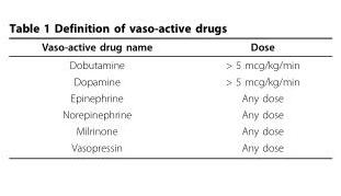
<table><thead><tr><td>Vaso-active drug name</td><td>Dose</td></tr></thead><tbody><tr><td>Dobutamine</td><td>&gt; 5 mcg/kg/min</td></tr><tr><td>Dopamine</td><td>&gt; 5 mcg/kg/min</td></tr><tr><td>Epinephrine</td><td>Any dose</td></tr><tr><td>Norepinephrine</td><td>Any dose</td></tr><tr><td>Milrinone</td><td>Any dose</td></tr><tr><td>Vasopressin</td><td>Any dose</td></tr></tbody></table>